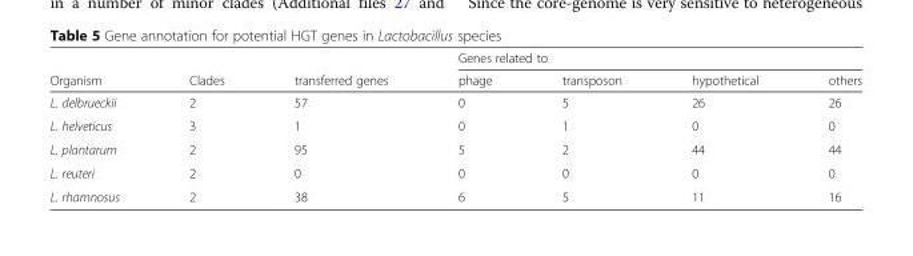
<table><thead><tr><td rowspan="2">Organism</td><td rowspan="2">Clades</td><td rowspan="2">transferred genes</td><td colspan="4">Genes related to</td></tr><tr><td>phage</td><td>transposon</td><td>hypothetical</td><td>others</td></tr></thead><tbody><tr><td>L. delbrueckii</td><td>2</td><td>57</td><td>0</td><td>5</td><td>26</td><td>26</td></tr><tr><td>L. helveticus</td><td>3</td><td>1</td><td>0</td><td>1</td><td>0</td><td>0</td></tr><tr><td>L. plantarum</td><td>2</td><td>95</td><td>5</td><td>2</td><td>44</td><td>44</td></tr><tr><td>L. reuteri</td><td>2</td><td>0</td><td>0</td><td>0</td><td>0</td><td>0</td></tr><tr><td>L. rhamnosus</td><td>2</td><td>38</td><td>6</td><td>5</td><td>11</td><td>16</td></tr></tbody></table>